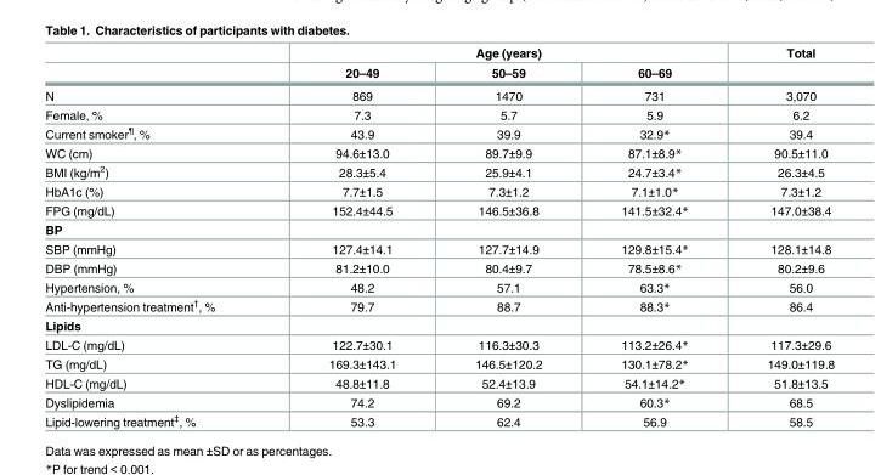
<table><thead><tr><td rowspan="2"></td><td colspan="3">Age (years)</td><td rowspan="2">Total</td></tr><tr><td>20–49</td><td>50–59</td><td>60–69</td></tr></thead><tbody><tr><td>N</td><td>869</td><td>1470</td><td>731</td><td>3,070</td></tr><tr><td>Female, %</td><td>7.3</td><td>5.7</td><td>5.9</td><td>6.2</td></tr><tr><td>Current smoker<sup>¶</sup>, %</td><td>43.9</td><td>39.9</td><td>32.9*</td><td>39.4</td></tr><tr><td>WC (cm)</td><td>94.6±13.0</td><td>89.7±9.9</td><td>87.1±8.9*</td><td>90.5±11.0</td></tr><tr><td>BMI (kg/m<sup>2</sup>)</td><td>28.3±5.4</td><td>25.9±4.1</td><td>24.7±3.4*</td><td>26.3±4.5</td></tr><tr><td>HbA1c (%)</td><td>7.7±1.5</td><td>7.3±1.2</td><td>7.1±1.0*</td><td>7.3±1.2</td></tr><tr><td>FPG (mg/dL)</td><td>152.4±44.5</td><td>146.5±36.8</td><td>141.5±32.4*</td><td>147.0±38.4</td></tr><tr><td colspan="5">BP</td></tr><tr><td>SBP (mmHg)</td><td>127.4±14.1</td><td>127.7±14.9</td><td>129.8±15.4*</td><td>128.1±14.8</td></tr><tr><td>DBP (mmHg)</td><td>81.2±10.0</td><td>80.4±9.7</td><td>78.5±8.6*</td><td>80.2±9.6</td></tr><tr><td>Hypertension, %</td><td>48.2</td><td>57.1</td><td>63.3*</td><td>56.0</td></tr><tr><td>Anti-hypertension treatment<sup>†</sup>, %</td><td>79.7</td><td>88.7</td><td>88.3*</td><td>86.4</td></tr><tr><td colspan="5">Lipids</td></tr><tr><td>LDL-C (mg/dL)</td><td>122.7±30.1</td><td>116.3±30.3</td><td>113.2±26.4*</td><td>117.3±29.6</td></tr><tr><td>TG (mg/dL)</td><td>169.3±143.1</td><td>146.5±120.2</td><td>130.1±78.2*</td><td>149.0±119.8</td></tr><tr><td>HDL-C (mg/dL)</td><td>48.8±11.8</td><td>52.4±13.9</td><td>54.1±14.2*</td><td>51.8±13.5</td></tr><tr><td>Dyslipidemia</td><td>74.2</td><td>69.2</td><td>60.3*</td><td>68.5</td></tr><tr><td>Lipid-lowering treatment<sup>‡</sup>, %</td><td>53.3</td><td>62.4</td><td>56.9</td><td>58.5</td></tr></tbody></table>